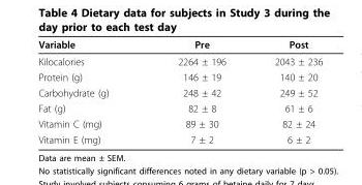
<table><thead><tr><td>Variable</td><td>Pre</td><td>Post</td></tr></thead><tbody><tr><td>Kilocalories</td><td>2264 ± 196</td><td>2043 ± 236</td></tr><tr><td>Protein (g)</td><td>146 ± 19</td><td>140 ± 20</td></tr><tr><td>Carbohydrate (g)</td><td>248 ± 42</td><td>249 ± 52</td></tr><tr><td>Fat (g)</td><td>82 ± 8</td><td>61 ± 6</td></tr><tr><td>Vitamin C (mg)</td><td>89 ± 30</td><td>82 ± 24</td></tr><tr><td>Vitamin E (mg)</td><td>7 ± 2</td><td>6 ± 2</td></tr></tbody></table>